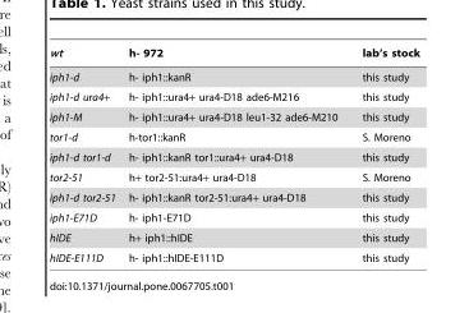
<table><thead><tr><td>wt</td><td>h- 972</td><td>lab’s stock</td></tr></thead><tbody><tr><td>iph1-d</td><td>h- iph1::kanR</td><td>this study</td></tr><tr><td>iph1-d ura4+</td><td>h- iph1::ura4+ ura4-D18 ade6-M216</td><td>this study</td></tr><tr><td>iph1-M</td><td>h- iph1::ura4+ ura4-D18 leu1-32 ade6-M210</td><td>this study</td></tr><tr><td>tor1-d</td><td>h-tor1::kanR</td><td>S. Moreno</td></tr><tr><td>iph1-d tor1-d</td><td>h- iph1::kanR tor1::ura4+ ura4-D18</td><td>this study</td></tr><tr><td>tor2-51</td><td>h+ tor2-51:ura4+ ura4-D18</td><td>S. Moreno</td></tr><tr><td>iph1-d tor2-51</td><td>h- iph1::kanR tor2-51:ura4+ ura4-D18</td><td>this study</td></tr><tr><td>iph1-E71D</td><td>h- iph1-E71D</td><td>this study</td></tr><tr><td>hIDE</td><td>h+ iph1::hIDE</td><td>this study</td></tr><tr><td>hIDE-E111D</td><td>h- iph1::hIDE-E111D</td><td>this study</td></tr></tbody></table>